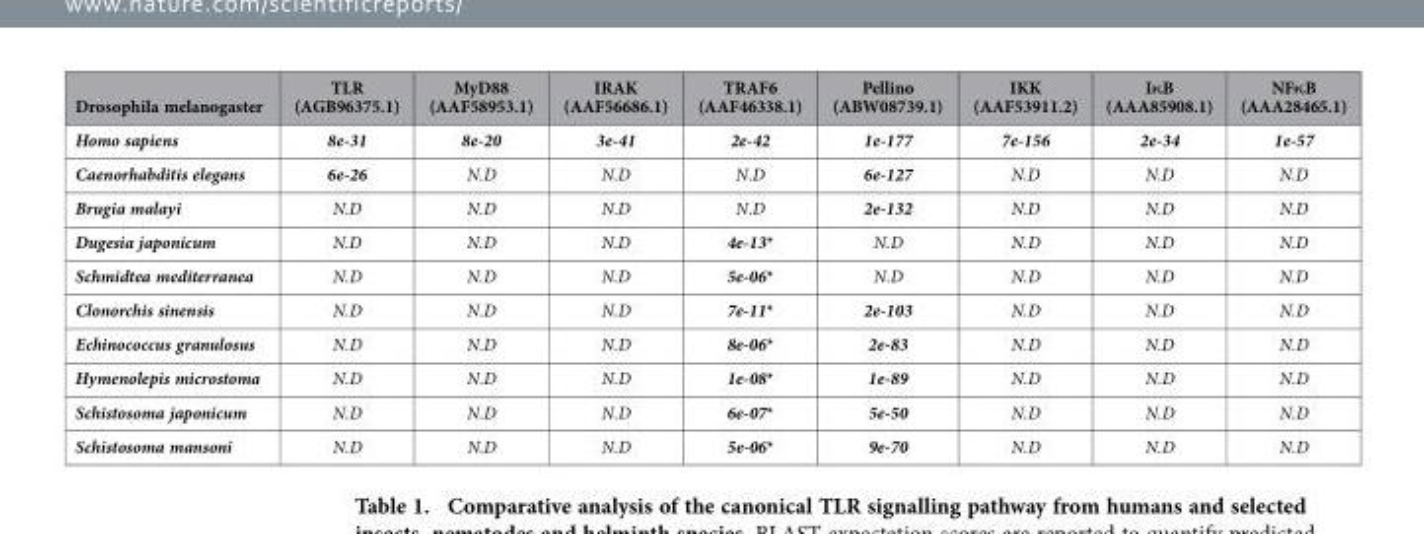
<table><thead><tr><td>Drosophila melanogaster</td><td>TLR (AGB96375.1)</td><td>MyD88 (AAF58953.1)</td><td>IRAK (AAF56686.1)</td><td>TRAF6 (AAF46338.1)</td><td>Pellino (ABW08739.1)</td><td>IKK (AAF53911.2)</td><td>IκB (AAA85908.1)</td><td>NFκB (AAA28465.1)</td></tr></thead><tbody><tr><td>Homo sapiens</td><td>8e-31</td><td>8e-20</td><td>3e-41</td><td>2e-42</td><td>1e-177</td><td>7e-156</td><td>2e-34</td><td>1e-57</td></tr><tr><td>Caenorhabditis elegans</td><td>6e-26</td><td>N.D</td><td>N.D</td><td>N.D</td><td>6e-127</td><td>N.D</td><td>N.D</td><td>N.D</td></tr><tr><td>Brugia malayi</td><td>N.D</td><td>N.D</td><td>N.D</td><td>N.D</td><td>2e-132</td><td>N.D</td><td>N.D</td><td>N.D</td></tr><tr><td>Dugesia japonicum</td><td>N.D</td><td>N.D</td><td>N.D</td><td>4e-13*</td><td>N.D</td><td>N.D</td><td>N.D</td><td>N.D</td></tr><tr><td>Schmidtea mediterranea</td><td>N.D</td><td>N.D</td><td>N.D</td><td>5e-06*</td><td>N.D</td><td>N.D</td><td>N.D</td><td>N.D</td></tr><tr><td>Clonorchis sinensis</td><td>N.D</td><td>N.D</td><td>N.D</td><td>7e-11*</td><td>2e-103</td><td>N.D</td><td>N.D</td><td>N.D</td></tr><tr><td>Echinococcus granulosus</td><td>N.D</td><td>N.D</td><td>N.D</td><td>8e-06*</td><td>2e-83</td><td>N.D</td><td>N.D</td><td>N.D</td></tr><tr><td>Hymenolepis microstoma</td><td>N.D</td><td>N.D</td><td>N.D</td><td>1e-08*</td><td>1e-89</td><td>N.D</td><td>N.D</td><td>N.D</td></tr><tr><td>Schistosoma japonicum</td><td>N.D</td><td>N.D</td><td>N.D</td><td>6e-07*</td><td>5e-50</td><td>N.D</td><td>N.D</td><td>N.D</td></tr><tr><td>Schistosoma mansoni</td><td>N.D</td><td>N.D</td><td>N.D</td><td>5e-06*</td><td>9e-70</td><td>N.D</td><td>N.D</td><td>N.D</td></tr></tbody></table>